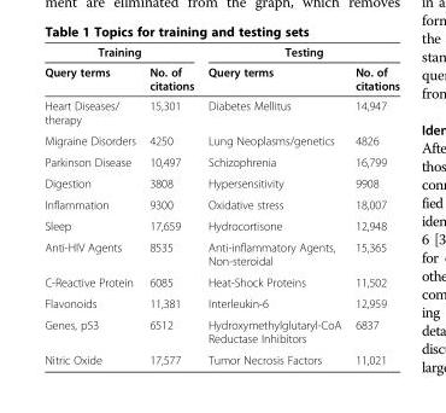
<table><thead><tr><td colspan="2">Training</td><td colspan="2">Testing</td></tr><tr><td>Query terms</td><td>No. of citations</td><td>Query terms</td><td>No. of citations</td></tr></thead><tbody><tr><td>Heart Diseases/ therapy</td><td>15,301</td><td>Diabetes Mellitus</td><td>14,947</td></tr><tr><td>Migraine Disorders</td><td>4250</td><td>Lung Neoplasms/genetics</td><td>4826</td></tr><tr><td>Parkinson Disease</td><td>10,497</td><td>Schizophrenia</td><td>16,799</td></tr><tr><td>Digestion</td><td>3808</td><td>Hypersensitivity</td><td>9908</td></tr><tr><td>Inflammation</td><td>9300</td><td>Oxidative stress</td><td>18,007</td></tr><tr><td>Sleep</td><td>17,659</td><td>Hydrocortisone</td><td>12,948</td></tr><tr><td>Anti-HIV Agents</td><td>8535</td><td>Anti-inflammatory Agents, Non-steroidal</td><td>15,365</td></tr><tr><td>C-Reactive Protein</td><td>6085</td><td>Heat-Shock Proteins</td><td>11,502</td></tr><tr><td>Flavonoids</td><td>11,381</td><td>Interleukin-6</td><td>12,959</td></tr><tr><td>Genes, p53</td><td>6512</td><td>Hydroxymethylglutaryl-CoA Reductase Inhibitors</td><td>6837</td></tr><tr><td>Nitric Oxide</td><td>17,577</td><td>Tumor Necrosis Factors</td><td>11,021</td></tr></tbody></table>